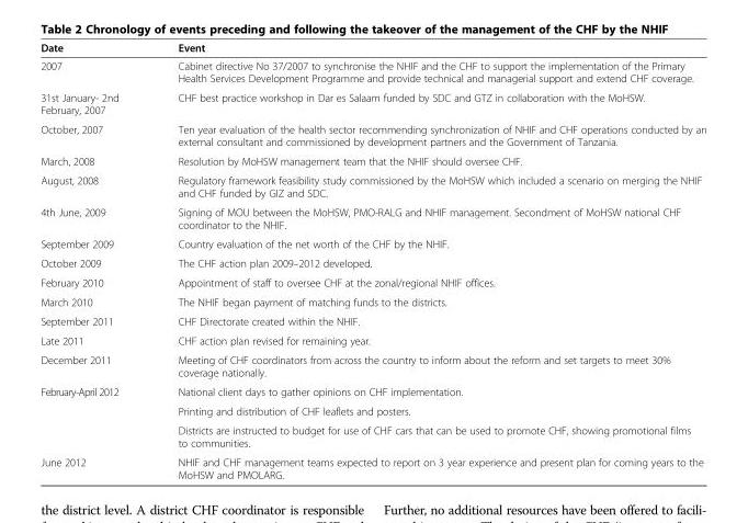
<table><thead><tr><td>Date</td><td>Event</td></tr></thead><tbody><tr><td>2007</td><td>Cabinet directive No 37/2007 to synchronise the NHIF and the CHF to support the implementation of the Primary Health Services Development Programme and provide technical and managerial support and extend CHF coverage.</td></tr><tr><td>31st January- 2nd February, 2007</td><td>CHF best practice workshop in Dar es Salaam funded by SDC and GTZ in collaboration with the MoHSW.</td></tr><tr><td>October, 2007</td><td>Ten year evaluation of the health sector recommending synchronization of NHIF and CHF operations conducted by an external consultant and commissioned by development partners and the Government of Tanzania.</td></tr><tr><td>March, 2008</td><td>Resolution by MoHSW management team that the NHIF should oversee CHF.</td></tr><tr><td>August, 2008</td><td>Regulatory framework feasibility study commissioned by the MoHSW which included a scenario on merging the NHIF and CHF funded by GIZ and SDC.</td></tr><tr><td>4th June, 2009</td><td>Signing of MOU between the MoHSW, PMO-RALG and NHIF management. Secondment of MoHSW national CHF coordinator to the NHIF.</td></tr><tr><td>September 2009</td><td>Country evaluation of the net worth of the CHF by the NHIF.</td></tr><tr><td>October 2009</td><td>The CHF action plan 2009–2012 developed.</td></tr><tr><td>February 2010</td><td>Appointment of staff to oversee CHF at the zonal/regional NHIF offices.</td></tr><tr><td>March 2010</td><td>The NHIF began payment of matching funds to the districts.</td></tr><tr><td>September 2011</td><td>CHF Directorate created within the NHIF.</td></tr><tr><td>Late 2011</td><td>CHF action plan revised for remaining year.</td></tr><tr><td>December 2011</td><td>Meeting of CHF coordinators from across the country to inform about the reform and set targets to meet 30% coverage nationally.</td></tr><tr><td rowspan="3">February-April 2012</td><td>National client days to gather opinions on CHF implementation.</td></tr><tr><td>Printing and distribution of CHF leaflets and posters.</td></tr><tr><td>Districts are instructed to budget for use of CHF cars that can be used to promote CHF, showing promotional films to communities.</td></tr><tr><td>June 2012</td><td>NHIF and CHF management teams expected to report on 3 year experience and present plan for coming years to the MoHSW and PMOLARG.</td></tr></tbody></table>